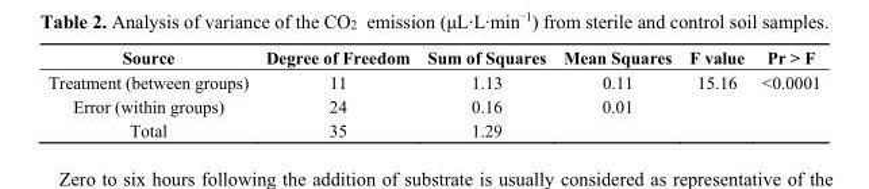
<table><thead><tr><td>Source</td><td>Degree of Freedom</td><td>Sum of Squares</td><td>Mean Squares</td><td>F value</td><td>Pr &gt; F</td></tr></thead><tbody><tr><td>Treatment (between groups)</td><td>11</td><td>1.13</td><td>0.11</td><td>15.16</td><td>&lt;0.0001</td></tr><tr><td>Error (within groups)</td><td>24</td><td>0.16</td><td>0.01</td><td></td><td></td></tr><tr><td>Total</td><td>35</td><td>1.29</td><td></td><td></td><td></td></tr></tbody></table>